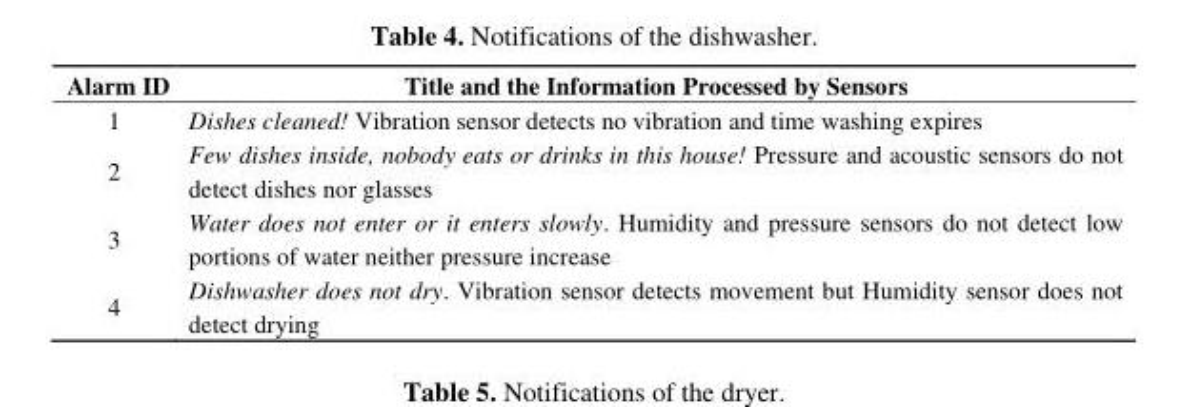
<table><thead><tr><td>Alarm ID</td><td>Title and the Information Processed by Sensors</td></tr></thead><tbody><tr><td>1</td><td>Dishes cleaned! Vibration sensor detects no vibration and time washing expires</td></tr><tr><td>2</td><td>Few dishes inside, nobody eats or drinks in this house! Pressure and acoustic sensors do not detect dishes nor glasses</td></tr><tr><td>3</td><td>Water does not enter or it enters slowly. Humidity and pressure sensors do not detect low portions of water neither pressure increase</td></tr><tr><td>4</td><td>Dishwasher does not dry. Vibration sensor detects movement but Humidity sensor does not detect drying</td></tr></tbody></table>